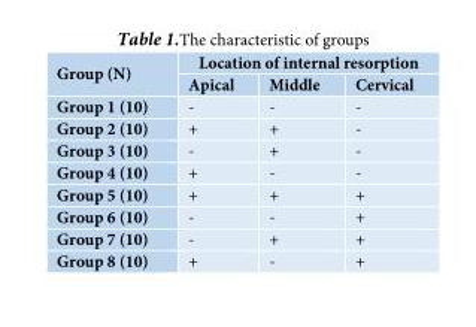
<table><thead><tr><td rowspan="2">Group (N)</td><td colspan="3">Location of internal resorption</td></tr><tr><td>Apical</td><td>Middle</td><td>Cervical</td></tr></thead><tbody><tr><td>Group 1 (10)</td><td>-</td><td>-</td><td>-</td></tr><tr><td>Group 2 (10)</td><td>+</td><td>+</td><td>-</td></tr><tr><td>Group 3 (10)</td><td>-</td><td>+</td><td>-</td></tr><tr><td>Group 4 (10)</td><td>+</td><td>-</td><td>-</td></tr><tr><td>Group 5 (10)</td><td>+</td><td>+</td><td>+</td></tr><tr><td>Group 6 (10)</td><td>-</td><td>-</td><td>+</td></tr><tr><td>Group 7 (10)</td><td>-</td><td>+</td><td>+</td></tr><tr><td>Group 8 (10)</td><td>+</td><td>-</td><td>+</td></tr></tbody></table>